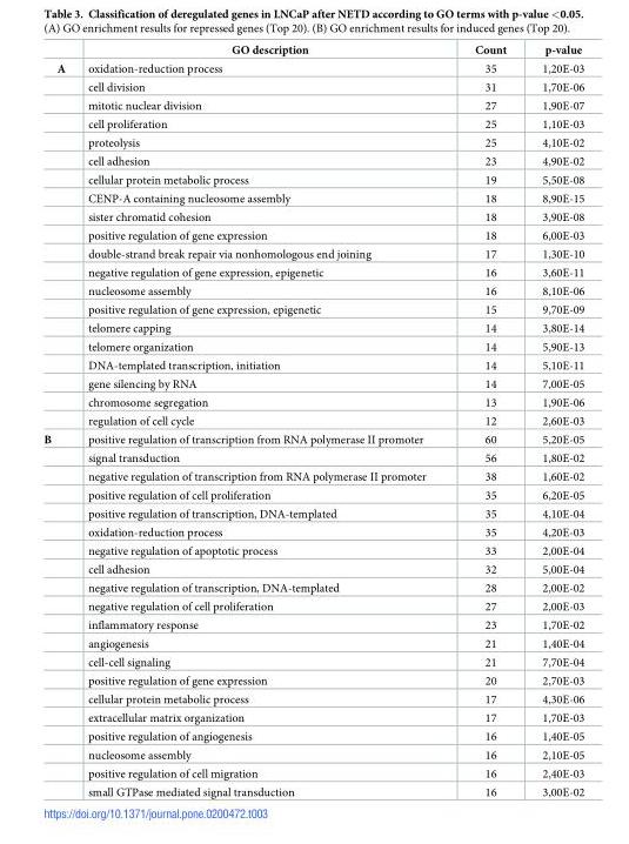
<table><thead><tr><td></td><td>GO description</td><td>Count</td><td>p-value</td></tr></thead><tbody><tr><td rowspan="20">A</td><td>oxidation-reduction process</td><td>35</td><td>1,20E-03</td></tr><tr><td>cell division</td><td>31</td><td>1,70E-06</td></tr><tr><td>mitotic nuclear division</td><td>27</td><td>1,90E-07</td></tr><tr><td>cell proliferation</td><td>25</td><td>1,10E-03</td></tr><tr><td>proteolysis</td><td>25</td><td>4,10E-02</td></tr><tr><td>cell adhesion</td><td>23</td><td>4,90E-02</td></tr><tr><td>cellular protein metabolic process</td><td>19</td><td>5,50E-08</td></tr><tr><td>CENP-A containing nucleosome assembly</td><td>18</td><td>8,90E-15</td></tr><tr><td>sister chromatid cohesion</td><td>18</td><td>3,90E-08</td></tr><tr><td>positive regulation of gene expression</td><td>18</td><td>6,00E-03</td></tr><tr><td>double-strand break repair via nonhomologous end joining</td><td>17</td><td>1,30E-10</td></tr><tr><td>negative regulation of gene expression, epigenetic</td><td>16</td><td>3,60E-11</td></tr><tr><td>nucleosome assembly</td><td>16</td><td>8,10E-06</td></tr><tr><td>positive regulation of gene expression, epigenetic</td><td>15</td><td>9,70E-09</td></tr><tr><td>telomere capping</td><td>14</td><td>3,80E-14</td></tr><tr><td>telomere organization</td><td>14</td><td>5,90E-13</td></tr><tr><td>DNA-templated transcription, initiation</td><td>14</td><td>5,10E-11</td></tr><tr><td>gene silencing by RNA</td><td>14</td><td>7,00E-05</td></tr><tr><td>chromosome segregation</td><td>13</td><td>1,90E-06</td></tr><tr><td>regulation of cell cycle</td><td>12</td><td>2,60E-03</td></tr><tr><td rowspan="20">B</td><td>positive regulation of transcription from RNA polymerase II promoter</td><td>60</td><td>5,20E-05</td></tr><tr><td>signal transduction</td><td>56</td><td>1,80E-02</td></tr><tr><td>negative regulation of transcription from RNA polymerase II promoter</td><td>38</td><td>1,60E-02</td></tr><tr><td>positive regulation of cell proliferation</td><td>35</td><td>6,20E-05</td></tr><tr><td>positive regulation of transcription, DNA-templated</td><td>35</td><td>4,10E-04</td></tr><tr><td>oxidation-reduction process</td><td>35</td><td>4,20E-03</td></tr><tr><td>negative regulation of apoptotic process</td><td>33</td><td>2,00E-04</td></tr><tr><td>cell adhesion</td><td>32</td><td>5,00E-04</td></tr><tr><td>negative regulation of transcription, DNA-templated</td><td>28</td><td>2,00E-02</td></tr><tr><td>negative regulation of cell proliferation</td><td>27</td><td>2,00E-03</td></tr><tr><td>inflammatory response</td><td>23</td><td>1,70E-02</td></tr><tr><td>angiogenesis</td><td>21</td><td>1,40E-04</td></tr><tr><td>cell-cell signaling</td><td>21</td><td>7,70E-04</td></tr><tr><td>positive regulation of gene expression</td><td>20</td><td>2,70E-03</td></tr><tr><td>cellular protein metabolic process</td><td>17</td><td>4,30E-06</td></tr><tr><td>extracellular matrix organization</td><td>17</td><td>1,70E-03</td></tr><tr><td>positive regulation of angiogenesis</td><td>16</td><td>1,40E-05</td></tr><tr><td>nucleosome assembly</td><td>16</td><td>2,10E-05</td></tr><tr><td>positive regulation of cell migration</td><td>16</td><td>2,40E-03</td></tr><tr><td>small GTPase mediated signal transduction</td><td>16</td><td>3,00E-02</td></tr></tbody></table>